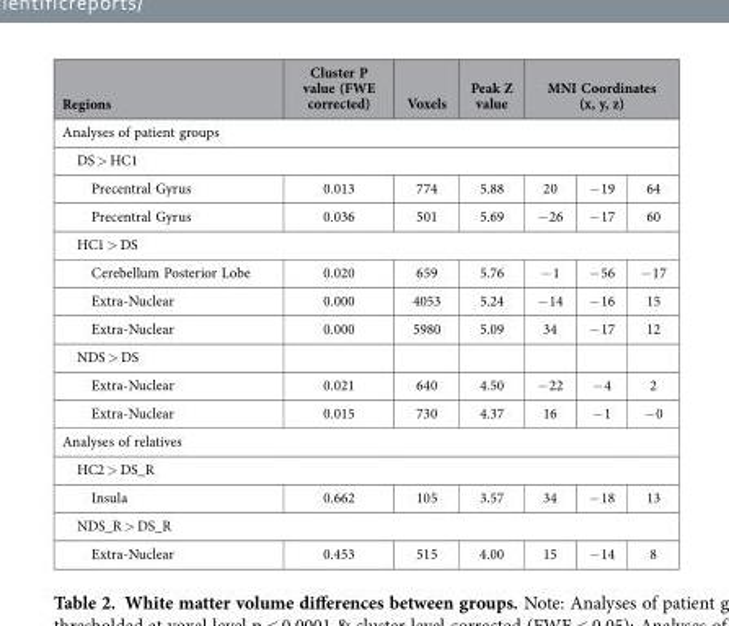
<table><thead><tr><td>Regions</td><td>Cluster P value (FWE corrected)</td><td>Voxels</td><td>Peak Z value</td><td colspan="3">MNI Coordinates (x, y, z)</td></tr><tr><td rowspan="2" colspan="7">Analyses of patient groups DS &gt; HC1</td></tr><tr></tr><tr><td>Precentral Gyrus</td><td>0.013</td><td>774</td><td>5.88</td><td>20</td><td>− 19</td><td>64</td></tr></thead><tbody><tr><td>Precentral Gyrus</td><td>0.036</td><td>501</td><td>5.69</td><td>− 26</td><td>− 17</td><td>60</td></tr><tr><td colspan="7">HC1 &gt; DS</td></tr><tr><td>Cerebellum Posterior Lobe</td><td>0.020</td><td>659</td><td>5.76</td><td>− 1</td><td>− 56</td><td>− 17</td></tr><tr><td>Extra-Nuclear</td><td>0.000</td><td>4053</td><td>5.24</td><td>− 14</td><td>− 16</td><td>15</td></tr><tr><td>Extra-Nuclear</td><td>0.000</td><td>5980</td><td>5.09</td><td>34</td><td>− 17</td><td>12</td></tr><tr><td colspan="7">NDS &gt; DS</td></tr><tr><td>Extra-Nuclear</td><td>0.021</td><td>640</td><td>4.50</td><td>− 22</td><td>− 4</td><td>2</td></tr><tr><td>Extra-Nuclear</td><td>0.015</td><td>730</td><td>4.37</td><td>16</td><td>− 1</td><td>− 0</td></tr><tr><td colspan="7">Analyses of relatives</td></tr><tr><td colspan="7">HC2 &gt; DS_R</td></tr><tr><td>Insula</td><td>0.662</td><td>105</td><td>3.57</td><td>34</td><td>− 18</td><td>13</td></tr><tr><td colspan="7">NDS_R &gt; DS_R</td></tr><tr><td>Extra-Nuclear</td><td>0.453</td><td>515</td><td>4.00</td><td>15</td><td>− 14</td><td>8</td></tr></tbody></table>